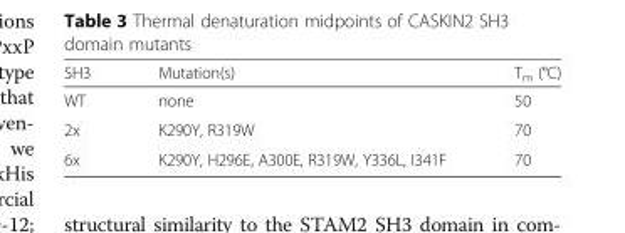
<table><thead><tr><td>SH3</td><td>Mutation(s)</td><td>T<sub>m</sub> (°C)</td></tr></thead><tbody><tr><td>WT</td><td>none</td><td>50</td></tr><tr><td>2x</td><td>K290Y, R319W</td><td>70</td></tr><tr><td>6x</td><td>K290Y, H296E, A300E, R319W, Y336L, I341F</td><td>70</td></tr></tbody></table>